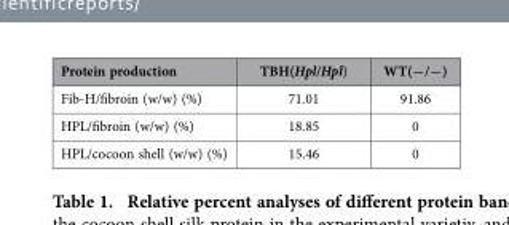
<table><thead><tr><td>Protein production</td><td>TBH(Hpl/Hpl)</td><td>WT(−/−)</td></tr></thead><tbody><tr><td>Fib-H/fibroin (w/w) (%)</td><td>71.01</td><td>91.86</td></tr><tr><td>HPL/fibroin (w/w) (%)</td><td>18.85</td><td>0</td></tr><tr><td>HPL/cocoon shell (w/w) (%)</td><td>15.46</td><td>0</td></tr></tbody></table>